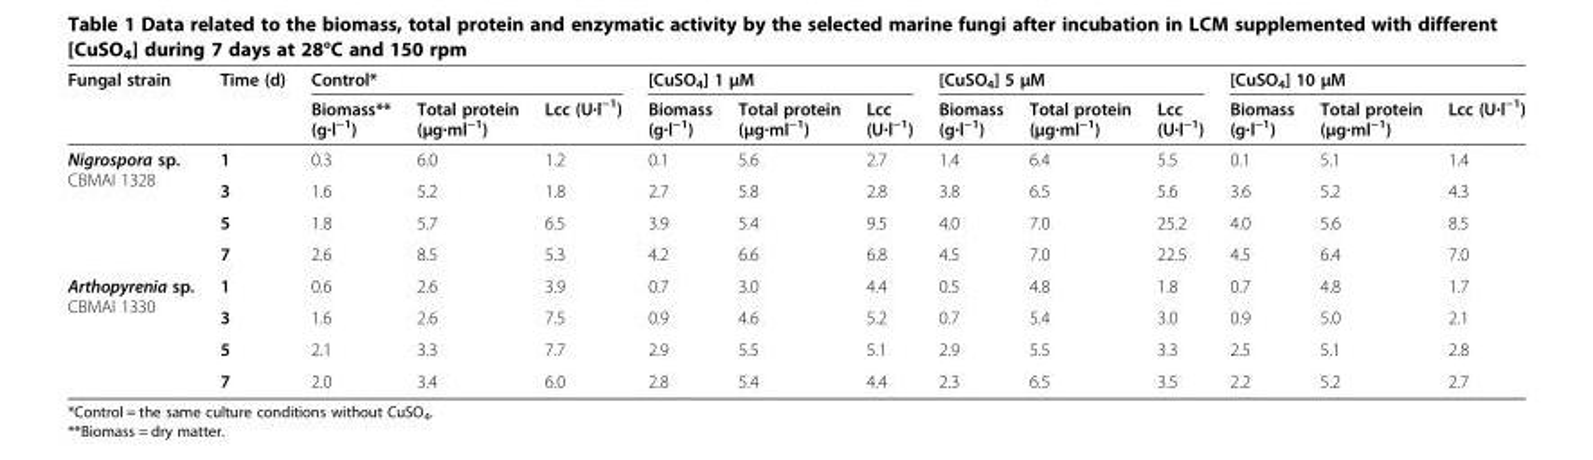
<table><thead><tr><td rowspan="2">Fungal strain</td><td rowspan="2">Time (d)</td><td colspan="3">Control*</td><td colspan="3">[CuSO<sub>4</sub>] 1 μM</td><td colspan="3">[CuSO<sub>4</sub>] 5 μM</td><td colspan="3">[CuSO<sub>4</sub>] 10 μM</td></tr><tr><td>Biomass** (g·l<sup>−1</sup>)</td><td>Total protein (μg·ml<sup>−1</sup>)</td><td>Lcc (U·l<sup>−1</sup>)</td><td>Biomass (g·l<sup>−1</sup>)</td><td>Total protein (μg·ml<sup>−1</sup>)</td><td>Lcc (U·l<sup>−1</sup>)</td><td>Biomass (g·l<sup>−1</sup>)</td><td>Total protein (μg·ml<sup>−1</sup>)</td><td>Lcc (U·l<sup>−1</sup>)</td><td>Biomass (g·l<sup>−1</sup>)</td><td>Total protein (μg·ml<sup>−1</sup>)</td><td>Lcc (U·l<sup>−1</sup>)</td></tr></thead><tbody><tr><td rowspan="4">Nigrospora sp. CBMAI 1328</td><td>1</td><td>0.3</td><td>6.0</td><td>1.2</td><td>0.1</td><td>5.6</td><td>2.7</td><td>1.4</td><td>6.4</td><td>5.5</td><td>0.1</td><td>5.1</td><td>1.4</td></tr><tr><td>3</td><td>1.6</td><td>5.2</td><td>1.8</td><td>2.7</td><td>5.8</td><td>2.8</td><td>3.8</td><td>6.5</td><td>5.6</td><td>3.6</td><td>5.2</td><td>4.3</td></tr><tr><td>5</td><td>1.8</td><td>5.7</td><td>6.5</td><td>3.9</td><td>5.4</td><td>9.5</td><td>4.0</td><td>7.0</td><td>25.2</td><td>4.0</td><td>5.6</td><td>8.5</td></tr><tr><td>7</td><td>2.6</td><td>8.5</td><td>5.3</td><td>4.2</td><td>6.6</td><td>6.8</td><td>4.5</td><td>7.0</td><td>22.5</td><td>4.5</td><td>6.4</td><td>7.0</td></tr><tr><td rowspan="4">Arthopyrenia sp. CBMAI 1330</td><td>1</td><td>0.6</td><td>2.6</td><td>3.9</td><td>0.7</td><td>3.0</td><td>4.4</td><td>0.5</td><td>4.8</td><td>1.8</td><td>0.7</td><td>4.8</td><td>1.7</td></tr><tr><td>3</td><td>1.6</td><td>2.6</td><td>7.5</td><td>0.9</td><td>4.6</td><td>5.2</td><td>0.7</td><td>5.4</td><td>3.0</td><td>0.9</td><td>5.0</td><td>2.1</td></tr><tr><td>5</td><td>2.1</td><td>3.3</td><td>7.7</td><td>2.9</td><td>5.5</td><td>5.1</td><td>2.9</td><td>5.5</td><td>3.3</td><td>2.5</td><td>5.1</td><td>2.8</td></tr><tr><td>7</td><td>2.0</td><td>3.4</td><td>6.0</td><td>2.8</td><td>5.4</td><td>4.4</td><td>2.3</td><td>6.5</td><td>3.5</td><td>2.2</td><td>5.2</td><td>2.7</td></tr></tbody></table>